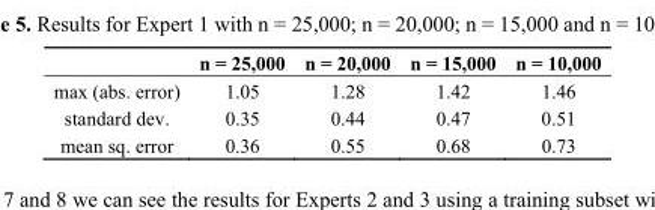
<table><thead><tr><td></td><td>n = 25,000</td><td>n = 20,000</td><td>n = 15,000</td><td>n = 10,000</td></tr></thead><tbody><tr><td>max (abs. error)</td><td>1.05</td><td>1.28</td><td>1.42</td><td>1.46</td></tr><tr><td>standard dev.</td><td>0.35</td><td>0.44</td><td>0.47</td><td>0.51</td></tr><tr><td>mean sq. error</td><td>0.36</td><td>0.55</td><td>0.68</td><td>0.73</td></tr></tbody></table>